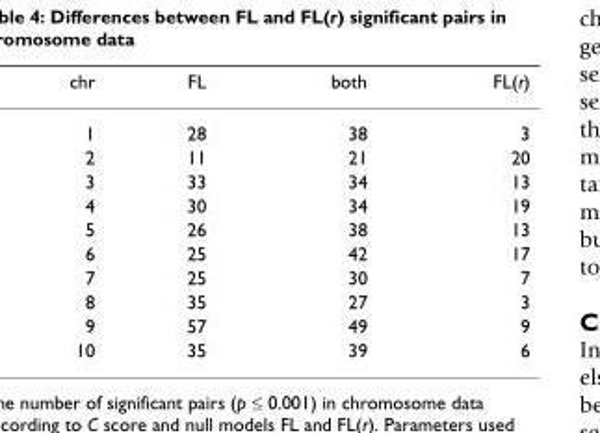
<table><thead><tr><td>chr</td><td>FL</td><td>both</td><td>FL(r)</td></tr></thead><tbody><tr><td>1</td><td>28</td><td>38</td><td>3</td></tr><tr><td>2</td><td>11</td><td>21</td><td>20</td></tr><tr><td>3</td><td>33</td><td>34</td><td>13</td></tr><tr><td>4</td><td>30</td><td>34</td><td>19</td></tr><tr><td>5</td><td>26</td><td>38</td><td>13</td></tr><tr><td>6</td><td>25</td><td>42</td><td>17</td></tr><tr><td>7</td><td>25</td><td>30</td><td>7</td></tr><tr><td>8</td><td>35</td><td>27</td><td>3</td></tr><tr><td>9</td><td>57</td><td>49</td><td>9</td></tr><tr><td>10</td><td>35</td><td>39</td><td>6</td></tr></tbody></table>